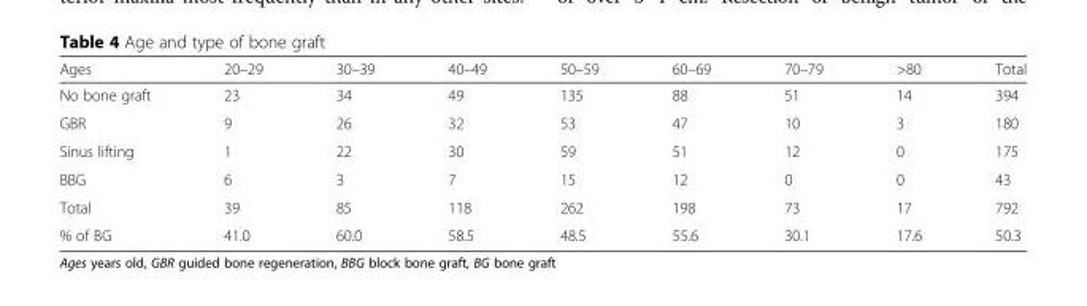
<table><thead><tr><td>Ages</td><td>20–29</td><td>30–39</td><td>40–49</td><td>50–59</td><td>60–69</td><td>70–79</td><td>&gt;80</td><td>Total</td></tr></thead><tbody><tr><td>No bone graft</td><td>23</td><td>34</td><td>49</td><td>135</td><td>88</td><td>51</td><td>14</td><td>394</td></tr><tr><td>GBR</td><td>9</td><td>26</td><td>32</td><td>53</td><td>47</td><td>10</td><td>3</td><td>180</td></tr><tr><td>Sinus lifting</td><td>1</td><td>22</td><td>30</td><td>59</td><td>51</td><td>12</td><td>0</td><td>175</td></tr><tr><td>BBG</td><td>6</td><td>3</td><td>7</td><td>15</td><td>12</td><td>0</td><td>0</td><td>43</td></tr><tr><td>Total</td><td>39</td><td>85</td><td>118</td><td>262</td><td>198</td><td>73</td><td>17</td><td>792</td></tr><tr><td>% of BG</td><td>41.0</td><td>60.0</td><td>58.5</td><td>48.5</td><td>55.6</td><td>30.1</td><td>17.6</td><td>50.3</td></tr></tbody></table>